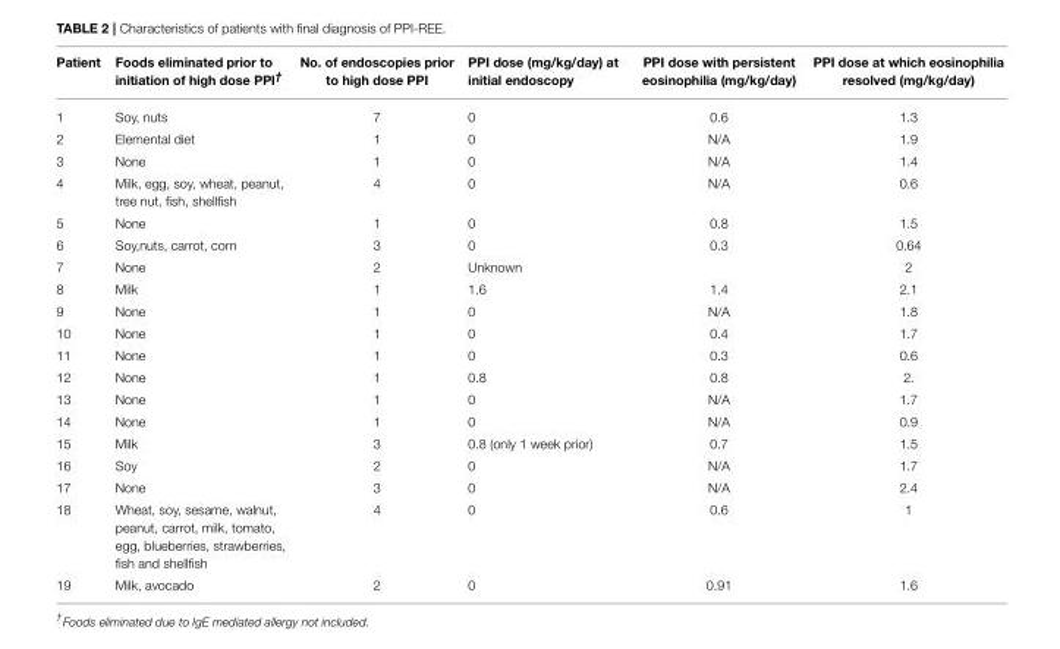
<table><thead><tr><td>Patient</td><td>Foods eliminated prior to initiation of high dose PPI<sup>†</sup></td><td>No. of endoscopies prior to high dose PPI</td><td>PPI dose (mg/kg/day) at initial endoscopy</td><td>PPI dose with persistent eosinophilia (mg/kg/day)</td><td>PPI dose at which eosinophilia resolved (mg/kg/day)</td></tr></thead><tbody><tr><td>1</td><td>Soy, nuts</td><td>7</td><td>0</td><td>0.6</td><td>1.3</td></tr><tr><td>2</td><td>Elemental diet</td><td>1</td><td>0</td><td>N/A</td><td>1.9</td></tr><tr><td>3</td><td>None</td><td>1</td><td>0</td><td>N/A</td><td>1.4</td></tr><tr><td>4</td><td>Milk, egg, soy, wheat, peanut, tree nut, fish, shellfish</td><td>4</td><td>0</td><td>N/A</td><td>0.6</td></tr><tr><td>5</td><td>None</td><td>1</td><td>0</td><td>0.8</td><td>1.5</td></tr><tr><td>6</td><td>Soy,nuts, carrot, corn</td><td>3</td><td>0</td><td>0.3</td><td>0.64</td></tr><tr><td>7</td><td>None</td><td>2</td><td>Unknown</td><td></td><td>2</td></tr><tr><td>8</td><td>Milk</td><td>1</td><td>1.6</td><td>1.4</td><td>2.1</td></tr><tr><td>9</td><td>None</td><td>1</td><td>0</td><td>N/A</td><td>1.8</td></tr><tr><td>10</td><td>None</td><td>1</td><td>0</td><td>0.4</td><td>1.7</td></tr><tr><td>11</td><td>None</td><td>1</td><td>0</td><td>0.3</td><td>0.6</td></tr><tr><td>12</td><td>None</td><td>1</td><td>0.8</td><td>0.8</td><td>2.</td></tr><tr><td>13</td><td>None</td><td>1</td><td>0</td><td>N/A</td><td>1.7</td></tr><tr><td>14</td><td>None</td><td>1</td><td>0</td><td>N/A</td><td>0.9</td></tr><tr><td>15</td><td>Milk</td><td>3</td><td>0.8 (only 1 week prior)</td><td>0.7</td><td>1.5</td></tr><tr><td>16</td><td>Soy</td><td>2</td><td>0</td><td>N/A</td><td>1.7</td></tr><tr><td>17</td><td>None</td><td>3</td><td>0</td><td>N/A</td><td>2.4</td></tr><tr><td>18</td><td>Wheat, soy, sesame, walnut, peanut, carrot, milk, tomato, egg, blueberries, strawberries, fish and shellfish</td><td>4</td><td>0</td><td>0.6</td><td>1</td></tr><tr><td>19</td><td>Milk, avocado</td><td>2</td><td>0</td><td>0.91</td><td>1.6</td></tr></tbody></table>